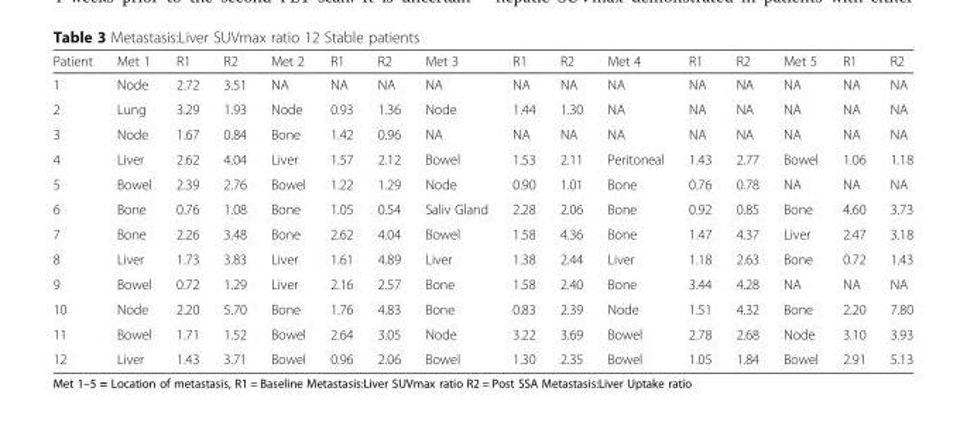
<table><thead><tr><td>Patient</td><td>Met 1</td><td>R1</td><td>R2</td><td>Met 2</td><td>R1</td><td>R2</td><td>Met 3</td><td>R1</td><td>R2</td><td>Met 4</td><td>R1</td><td>R2</td><td>Met 5</td><td>R1</td><td>R2</td></tr></thead><tbody><tr><td>1</td><td>Node</td><td>2.72</td><td>3.51</td><td>NA</td><td>NA</td><td>NA</td><td>NA</td><td>NA</td><td>NA</td><td>NA</td><td>NA</td><td>NA</td><td>NA</td><td>NA</td><td>NA</td></tr><tr><td>2</td><td>Lung</td><td>3.29</td><td>1.93</td><td>Node</td><td>0.93</td><td>1.36</td><td>Node</td><td>1.44</td><td>1.30</td><td>NA</td><td>NA</td><td>NA</td><td>NA</td><td>NA</td><td>NA</td></tr><tr><td>3</td><td>Node</td><td>1.67</td><td>0.84</td><td>Bone</td><td>1.42</td><td>0.96</td><td>NA</td><td>NA</td><td>NA</td><td>NA</td><td>NA</td><td>NA</td><td>NA</td><td>NA</td><td>NA</td></tr><tr><td>4</td><td>Liver</td><td>2.62</td><td>4.04</td><td>Liver</td><td>1.57</td><td>2.12</td><td>Bowel</td><td>1.53</td><td>2.11</td><td>Peritoneal</td><td>1.43</td><td>2.77</td><td>Bowel</td><td>1.06</td><td>1.18</td></tr><tr><td>5</td><td>Bowel</td><td>2.39</td><td>2.76</td><td>Bowel</td><td>1.22</td><td>1.29</td><td>Node</td><td>0.90</td><td>1.01</td><td>Bone</td><td>0.76</td><td>0.78</td><td>NA</td><td>NA</td><td>NA</td></tr><tr><td>6</td><td>Bone</td><td>0.76</td><td>1.08</td><td>Bone</td><td>1.05</td><td>0.54</td><td>Saliv Gland</td><td>2.28</td><td>2.06</td><td>Bone</td><td>0.92</td><td>0.85</td><td>Bone</td><td>4.60</td><td>3.73</td></tr><tr><td>7</td><td>Bone</td><td>2.26</td><td>3.48</td><td>Bone</td><td>2.62</td><td>4.04</td><td>Bowel</td><td>1.58</td><td>4.36</td><td>Bone</td><td>1.47</td><td>4.37</td><td>Liver</td><td>2.47</td><td>3.18</td></tr><tr><td>8</td><td>Liver</td><td>1.73</td><td>3.83</td><td>Liver</td><td>1.61</td><td>4.89</td><td>Liver</td><td>1.38</td><td>2.44</td><td>Liver</td><td>1.18</td><td>2.63</td><td>Bone</td><td>0.72</td><td>1.43</td></tr><tr><td>9</td><td>Bowel</td><td>0.72</td><td>1.29</td><td>Liver</td><td>2.16</td><td>2.57</td><td>Bone</td><td>1.58</td><td>2.40</td><td>Bone</td><td>3.44</td><td>4.28</td><td>NA</td><td>NA</td><td>NA</td></tr><tr><td>10</td><td>Node</td><td>2.20</td><td>5.70</td><td>Bone</td><td>1.76</td><td>4.83</td><td>Bone</td><td>0.83</td><td>2.39</td><td>Node</td><td>1.51</td><td>4.32</td><td>Bone</td><td>2.20</td><td>7.80</td></tr><tr><td>11</td><td>Bowel</td><td>1.71</td><td>1.52</td><td>Bowel</td><td>2.64</td><td>3.05</td><td>Node</td><td>3.22</td><td>3.69</td><td>Bowel</td><td>2.78</td><td>2.68</td><td>Node</td><td>3.10</td><td>3.93</td></tr><tr><td>12</td><td>Liver</td><td>1.43</td><td>3.71</td><td>Bowel</td><td>0.96</td><td>2.06</td><td>Bowel</td><td>1.30</td><td>2.35</td><td>Bowel</td><td>1.05</td><td>1.84</td><td>Bowel</td><td>2.91</td><td>5.13</td></tr></tbody></table>